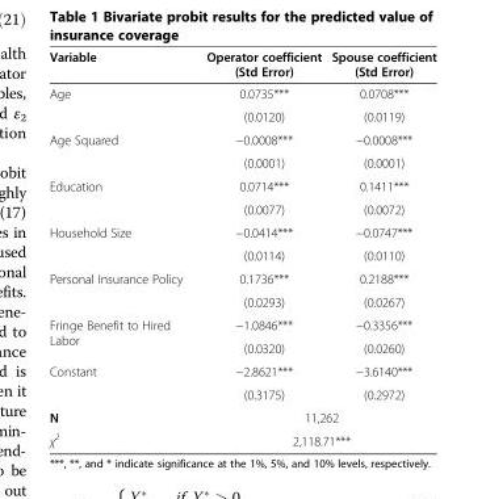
<table><thead><tr><td>Variable</td><td>Operator coefficient (Std Error)</td><td>Spouse coefficient (Std Error)</td></tr></thead><tbody><tr><td rowspan="2">Age</td><td>0.0735***</td><td>0.0708***</td></tr><tr><td>(0.0120)</td><td>(0.0119)</td></tr><tr><td rowspan="2">Age Squared</td><td>−0.0008***</td><td>−0.0008***</td></tr><tr><td>(0.0001)</td><td>(0.0001)</td></tr><tr><td rowspan="2">Education</td><td>0.0714***</td><td>0.1411***</td></tr><tr><td>(0.0077)</td><td>(0.0072)</td></tr><tr><td rowspan="2">Household Size</td><td>−0.0414***</td><td>−0.0747***</td></tr><tr><td>(0.0114)</td><td>(0.0110)</td></tr><tr><td rowspan="2">Personal Insurance Policy</td><td>0.1736***</td><td>0.2188***</td></tr><tr><td>(0.0293)</td><td>(0.0267)</td></tr><tr><td rowspan="2">Fringe Benefit to Hired Labor</td><td>−1.0846***</td><td>−0.3356***</td></tr><tr><td>(0.0320)</td><td>(0.0260)</td></tr><tr><td rowspan="2">Constant</td><td>−2.8621***</td><td>−3.6140***</td></tr><tr><td>(0.3175)</td><td>(0.2972)</td></tr><tr><td>N</td><td colspan="2">11,262</td></tr><tr><td>χ<sup>2</sup></td><td colspan="2">2,118.71***</td></tr></tbody></table>